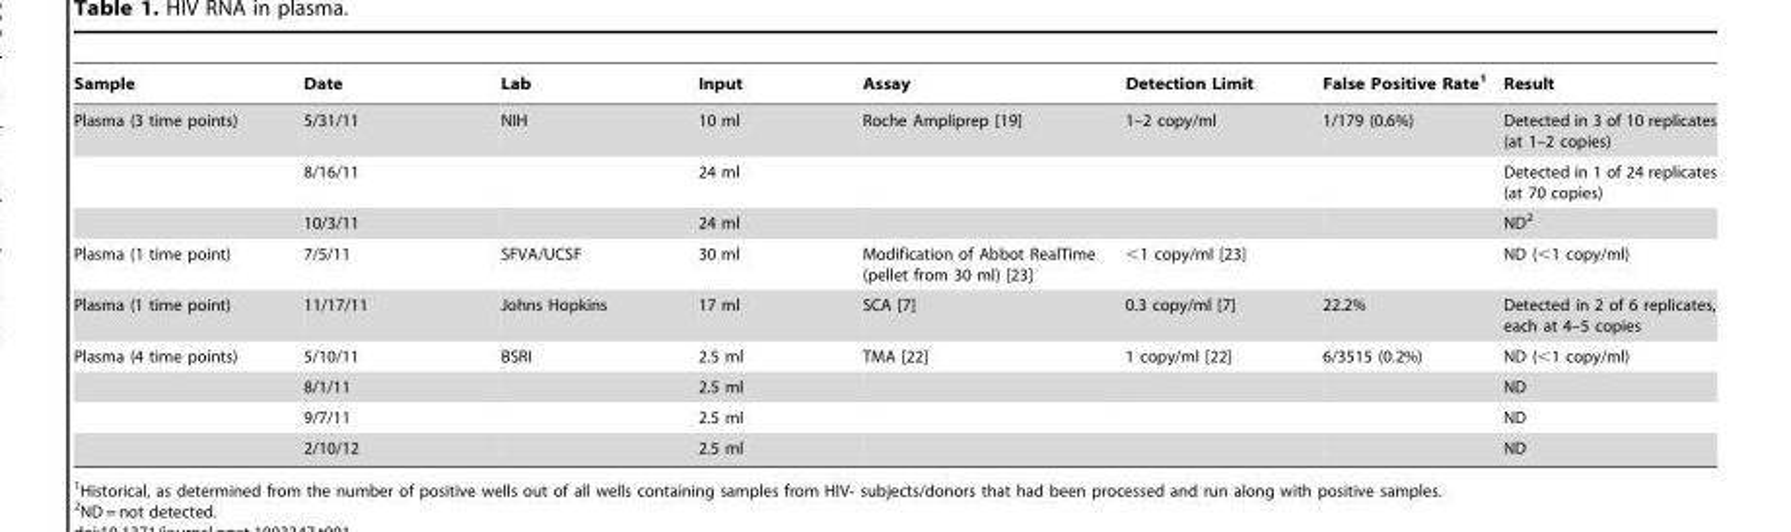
<table><thead><tr><td>Sample</td><td>Date</td><td>Lab</td><td>Input</td><td>Assay</td><td>Detection Limit</td><td>False Positive Rate<sup>1</sup></td><td>Result</td></tr></thead><tbody><tr><td rowspan="3">Plasma (3 time points)</td><td>5/31/11</td><td>NIH</td><td>10 ml</td><td>Roche Ampliprep [19]</td><td>1–2 copy/ml</td><td>1/179 (0.6%)</td><td>Detected in 3 of 10 replicates (at 1–2 copies)</td></tr><tr><td>8/16/11</td><td></td><td>24 ml</td><td></td><td></td><td></td><td>Detected in 1 of 24 replicates (at 70 copies)</td></tr><tr><td>10/3/11</td><td></td><td>24 ml</td><td></td><td></td><td></td><td>ND<sup>2</sup></td></tr><tr><td>Plasma (1 time point)</td><td>7/5/11</td><td>SFVA/UCSF</td><td>30 ml</td><td>Modification of Abbot RealTime (pellet from 30 ml) [23]</td><td>&lt;1 copy/ml [23]</td><td></td><td>ND (&lt;1 copy/ml)</td></tr><tr><td>Plasma (1 time point)</td><td>11/17/11</td><td>Johns Hopkins</td><td>17 ml</td><td>SCA [7]</td><td>0.3 copy/ml [7]</td><td>22.2%</td><td>Detected in 2 of 6 replicates, each at 4–5 copies</td></tr><tr><td rowspan="4">Plasma (4 time points)</td><td>5/10/11</td><td>BSRI</td><td>2.5 ml</td><td>TMA [22]</td><td>1 copy/ml [22]</td><td>6/3515 (0.2%)</td><td>ND (&lt;1 copy/ml)</td></tr><tr><td>8/1/11</td><td></td><td>2.5 ml</td><td></td><td></td><td></td><td>ND</td></tr><tr><td>9/7/11</td><td></td><td>2.5 ml</td><td></td><td></td><td></td><td>ND</td></tr><tr><td>2/10/12</td><td></td><td>2.5 ml</td><td></td><td></td><td></td><td>ND</td></tr></tbody></table>